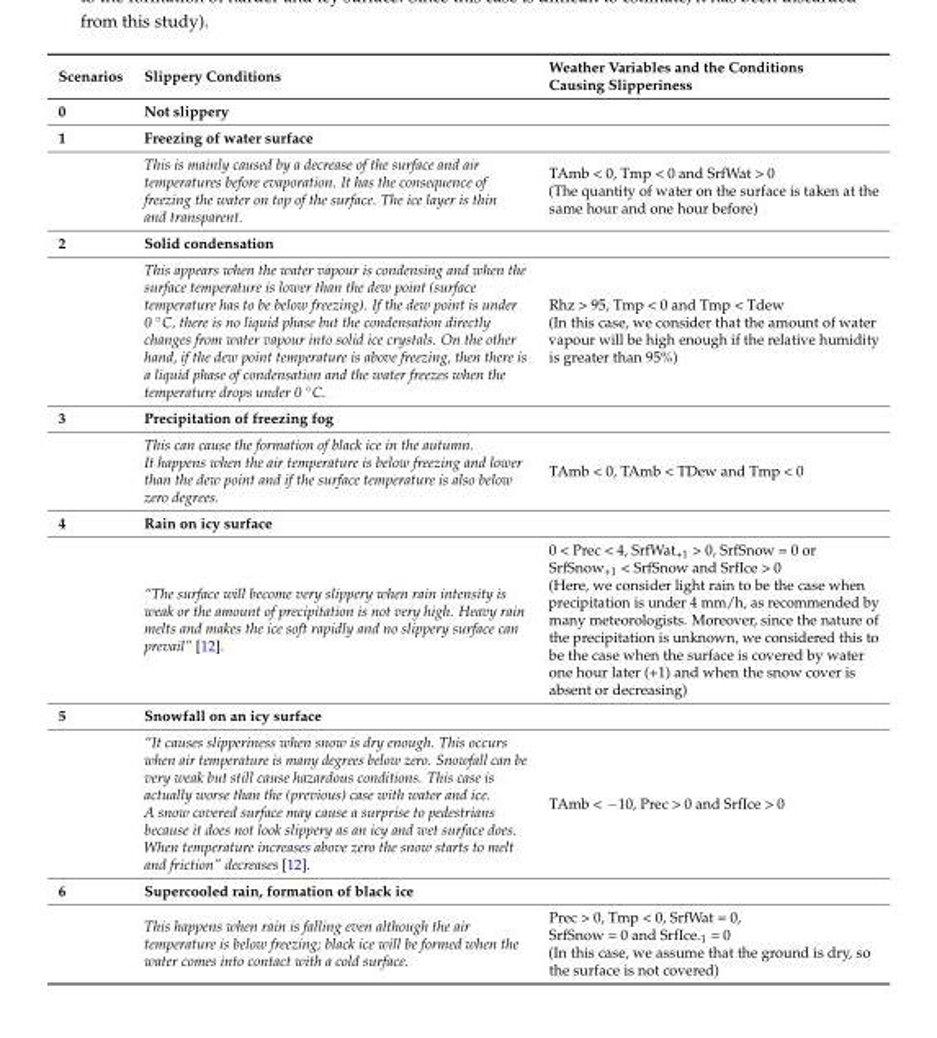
<table><thead><tr><td>Scenarios</td><td>Slippery Conditions</td><td>Weather Variables and the Conditions Causing Slipperiness</td></tr></thead><tbody><tr><td>0</td><td>Not slippery</td><td></td></tr><tr><td rowspan="2">1</td><td>Freezing of water surface</td><td></td></tr><tr><td>This is mainly caused by a decrease of the surface and air temperatures before evaporation. It has the consequence of freezing the water on top of the surface. The ice layer is thin and transparent.</td><td>TAmb &lt; 0, Tmp &lt; 0 and SrfWat &gt; 0 (The quantity of water on the surface is taken at the same hour and one hour before)</td></tr><tr><td rowspan="2">2</td><td>Solid condensation</td><td></td></tr><tr><td>This appears when the water vapour is condensing and when the surface temperature is lower than the dew point (surface temperature has to be below freezing). If the dew point is under 0 ◦C, there is no liquid phase but the condensation directly changes from water vapour into solid ice crystals. On the other hand, if the dew point temperature is above freezing, then there is a liquid phase of condensation and the water freezes when the temperature drops under 0 ◦C.</td><td>Rhz &gt; 95, Tmp &lt; 0 and Tmp &lt; Tdew (In this case, we consider that the amount of water vapour will be high enough if the relative humidity is greater than 95%)</td></tr><tr><td rowspan="2">3</td><td>Precipitation of freezing fog</td><td></td></tr><tr><td>This can cause the formation of black ice in the autumn. It happens when the air temperature is below freezing and lower than the dew point and if the surface temperature is also below zero degrees.</td><td>TAmb &lt; 0, TAmb &lt; TDew and Tmp &lt; 0</td></tr><tr><td rowspan="2">4</td><td>Rain on icy surface</td><td></td></tr><tr><td>“The surface will become very slippery when rain intensity is weak or the amount of precipitation is not very high. Heavy rain melts and makes the ice soft rapidly and no slippery surface can prevail” [12].</td><td>0 &lt; Prec &lt; 4, SrfWat<sub>+1</sub> &gt; 0, SrfSnow = 0 or SrfSnow<sub>+1</sub> &lt; SrfSnow and SrfIce &gt; 0 (Here, we consider light rain to be the case when precipitation is under 4 mm/h, as recommended by many meteorologists. Moreover, since the nature of the precipitation is unknown, we considered this to be the case when the surface is covered by water one hour later (+1) and when the snow cover is absent or decreasing)</td></tr><tr><td rowspan="2">5</td><td>Snowfall on an icy surface</td><td></td></tr><tr><td>“It causes slipperiness when snow is dry enough. This occurs when air temperature is many degrees below zero. Snowfall can be very weak but still cause hazardous conditions. This case is actually worse than the (previous) case with water and ice. A snow covered surface may cause a surprise to pedestrians because it does not look slippery as an icy and wet surface does. When temperature increases above zero the snow starts to melt and friction” decreases [12].</td><td>TAmb &lt; −10, Prec &gt; 0 and SrfIce &gt; 0</td></tr><tr><td rowspan="2">6</td><td>Supercooled rain, formation of black ice</td><td></td></tr><tr><td>This happens when rain is falling even although the air temperature is below freezing; black ice will be formed when the water comes into contact with a cold surface.</td><td>Prec &gt; 0, Tmp &lt; 0, SrfWat = 0, SrfSnow = 0 and SrfIce<sub>-1</sub> = 0 (In this case, we assume that the ground is dry, so the surface is not covered)</td></tr></tbody></table>